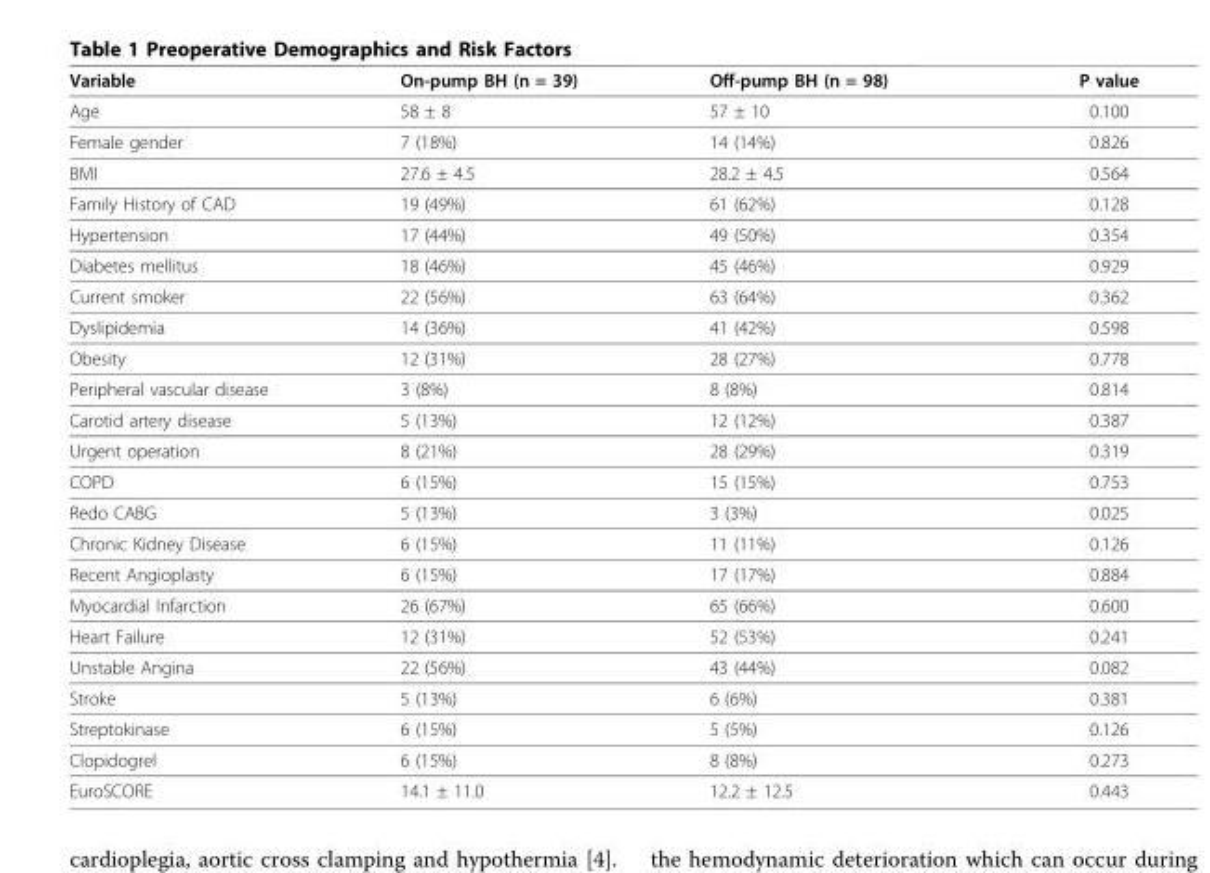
<table><thead><tr><td>Variable</td><td>On-pump BH (n = 39)</td><td>Off-pump BH (n = 98)</td><td>P value</td></tr></thead><tbody><tr><td>Age</td><td>58 ± 8</td><td>57 ± 10</td><td>0.100</td></tr><tr><td>Female gender</td><td>7 (18%)</td><td>14 (14%)</td><td>0.826</td></tr><tr><td>BMI</td><td>27.6 ± 4.5</td><td>28.2 ± 4.5</td><td>0.564</td></tr><tr><td>Family History of CAD</td><td>19 (49%)</td><td>61 (62%)</td><td>0.128</td></tr><tr><td>Hypertension</td><td>17 (44%)</td><td>49 (50%)</td><td>0.354</td></tr><tr><td>Diabetes mellitus</td><td>18 (46%)</td><td>45 (46%)</td><td>0.929</td></tr><tr><td>Current smoker</td><td>22 (56%)</td><td>63 (64%)</td><td>0.362</td></tr><tr><td>Dyslipidemia</td><td>14 (36%)</td><td>41 (42%)</td><td>0.598</td></tr><tr><td>Obesity</td><td>12 (31%)</td><td>28 (27%)</td><td>0.778</td></tr><tr><td>Peripheral vascular disease</td><td>3 (8%)</td><td>8 (8%)</td><td>0.814</td></tr><tr><td>Carotid artery disease</td><td>5 (13%)</td><td>12 (12%)</td><td>0.387</td></tr><tr><td>Urgent operation</td><td>8 (21%)</td><td>28 (29%)</td><td>0.319</td></tr><tr><td>COPD</td><td>6 (15%)</td><td>15 (15%)</td><td>0.753</td></tr><tr><td>Redo CABG</td><td>5 (13%)</td><td>3 (3%)</td><td>0.025</td></tr><tr><td>Chronic Kidney Disease</td><td>6 (15%)</td><td>11 (11%)</td><td>0.126</td></tr><tr><td>Recent Angioplasty</td><td>6 (15%)</td><td>17 (17%)</td><td>0.884</td></tr><tr><td>Myocardial Infarction</td><td>26 (67%)</td><td>65 (66%)</td><td>0.600</td></tr><tr><td>Heart Failure</td><td>12 (31%)</td><td>52 (53%)</td><td>0.241</td></tr><tr><td>Unstable Angina</td><td>22 (56%)</td><td>43 (44%)</td><td>0.082</td></tr><tr><td>Stroke</td><td>5 (13%)</td><td>6 (6%)</td><td>0.381</td></tr><tr><td>Streptokinase</td><td>6 (15%)</td><td>5 (5%)</td><td>0.126</td></tr><tr><td>Clopidogrel</td><td>6 (15%)</td><td>8 (8%)</td><td>0.273</td></tr><tr><td>EuroSCORE</td><td>14.1 ± 11.0</td><td>12.2 ± 12.5</td><td>0.443</td></tr></tbody></table>